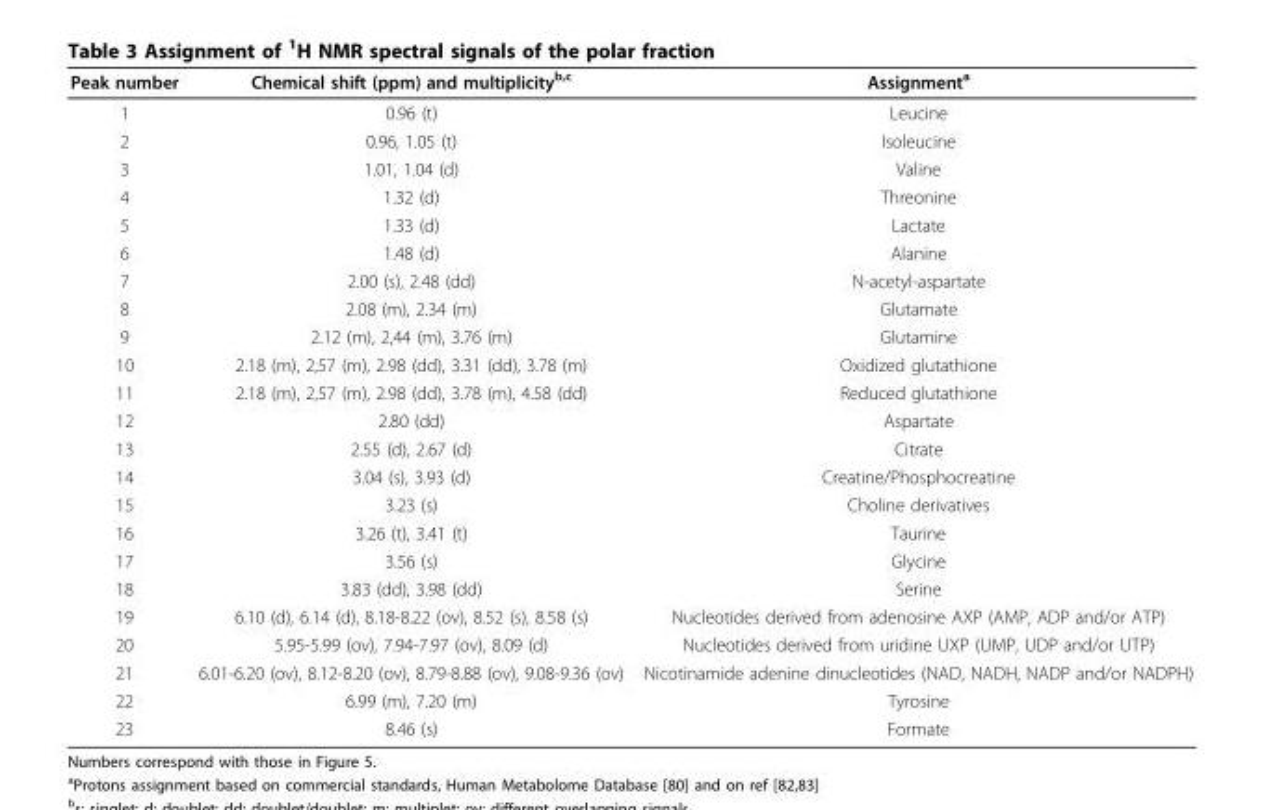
<table><thead><tr><td>Peak number</td><td>Chemical shift (ppm) and multiplicity<sup>b,c</sup></td><td>Assignment<sup>a</sup></td></tr></thead><tbody><tr><td>1</td><td>0.96 (t)</td><td>Leucine</td></tr><tr><td>2</td><td>0.96, 1.05 (t)</td><td>Isoleucine</td></tr><tr><td>3</td><td>1.01, 1.04 (d)</td><td>Valine</td></tr><tr><td>4</td><td>1.32 (d)</td><td>Threonine</td></tr><tr><td>5</td><td>1.33 (d)</td><td>Lactate</td></tr><tr><td>6</td><td>1.48 (d)</td><td>Alanine</td></tr><tr><td>7</td><td>2.00 (s), 2.48 (dd)</td><td>N-acetyl-aspartate</td></tr><tr><td>8</td><td>2.08 (m), 2.34 (m)</td><td>Glutamate</td></tr><tr><td>9</td><td>2.12 (m), 2,44 (m), 3.76 (m)</td><td>Glutamine</td></tr><tr><td>10</td><td>2.18 (m), 2,57 (m), 2.98 (dd), 3.31 (dd), 3.78 (m)</td><td>Oxidized glutathione</td></tr><tr><td>11</td><td>2.18 (m), 2,57 (m), 2.98 (dd), 3.78 (m), 4.58 (dd)</td><td>Reduced glutathione</td></tr><tr><td>12</td><td>2.80 (dd)</td><td>Aspartate</td></tr><tr><td>13</td><td>2.55 (d), 2.67 (d)</td><td>Citrate</td></tr><tr><td>14</td><td>3.04 (s), 3.93 (d)</td><td>Creatine/Phosphocreatine</td></tr><tr><td>15</td><td>3.23 (s)</td><td>Choline derivatives</td></tr><tr><td>16</td><td>3.26 (t), 3.41 (t)</td><td>Taurine</td></tr><tr><td>17</td><td>3.56 (s)</td><td>Glycine</td></tr><tr><td>18</td><td>3.83 (dd), 3.98 (dd)</td><td>Serine</td></tr><tr><td>19</td><td>6.10 (d), 6.14 (d), 8.18-8.22 (ov), 8.52 (s), 8.58 (s)</td><td>Nucleotides derived from adenosine AXP (AMP, ADP and/or ATP)</td></tr><tr><td>20</td><td>5.95-5.99 (ov), 7.94-7.97 (ov), 8.09 (d)</td><td>Nucleotides derived from uridine UXP (UMP, UDP and/or UTP)</td></tr><tr><td>21</td><td>6.01-6.20 (ov), 8.12-8.20 (ov), 8.79-8.88 (ov), 9.08-9.36 (ov)</td><td>Nicotinamide adenine dinucleotides (NAD, NADH, NADP and/or NADPH)</td></tr><tr><td>22</td><td>6.99 (m), 7.20 (m)</td><td>Tyrosine</td></tr><tr><td>23</td><td>8.46 (s)</td><td>Formate</td></tr></tbody></table>